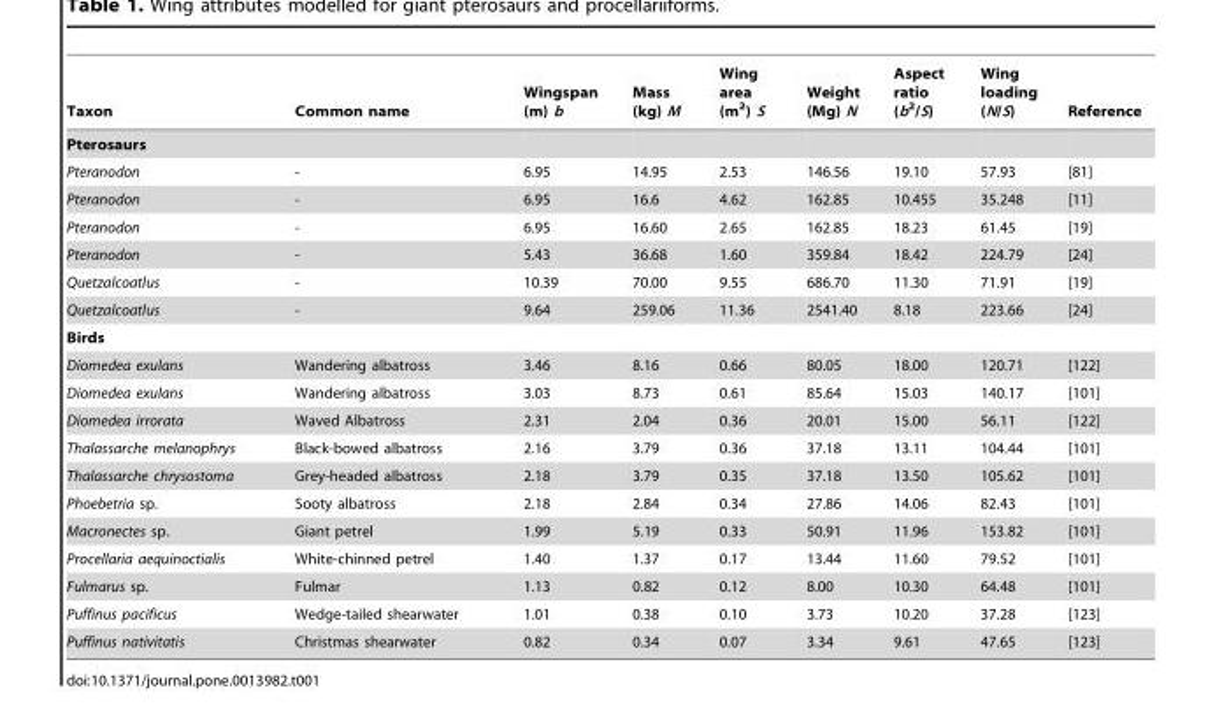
<table><thead><tr><td>Taxon</td><td>Common name</td><td>Wingspan (m) b</td><td>Mass (kg) M</td><td>Wing area (m<sup>2</sup>) S</td><td>Weight (Mg) N</td><td>Aspect ratio (b<sup>2</sup>/S)</td><td>Wing loading (N/S)</td><td>Reference</td></tr></thead><tbody><tr><td colspan="9">Pterosaurs</td></tr><tr><td>Pteranodon</td><td>-</td><td>6.95</td><td>14.95</td><td>2.53</td><td>146.56</td><td>19.10</td><td>57.93</td><td>[81]</td></tr><tr><td>Pteranodon</td><td>-</td><td>6.95</td><td>16.6</td><td>4.62</td><td>162.85</td><td>10.455</td><td>35.248</td><td>[11]</td></tr><tr><td>Pteranodon</td><td>-</td><td>6.95</td><td>16.60</td><td>2.65</td><td>162.85</td><td>18.23</td><td>61.45</td><td>[19]</td></tr><tr><td>Pteranodon</td><td>-</td><td>5.43</td><td>36.68</td><td>1.60</td><td>359.84</td><td>18.42</td><td>224.79</td><td>[24]</td></tr><tr><td>Quetzalcoatlus</td><td>-</td><td>10.39</td><td>70.00</td><td>9.55</td><td>686.70</td><td>11.30</td><td>71.91</td><td>[19]</td></tr><tr><td>Quetzalcoatlus</td><td>-</td><td>9.64</td><td>259.06</td><td>11.36</td><td>2541.40</td><td>8.18</td><td>223.66</td><td>[24]</td></tr><tr><td colspan="9">Birds</td></tr><tr><td>Diomedea exulans</td><td>Wandering albatross</td><td>3.46</td><td>8.16</td><td>0.66</td><td>80.05</td><td>18.00</td><td>120.71</td><td>[122]</td></tr><tr><td>Diomedea exulans</td><td>Wandering albatross</td><td>3.03</td><td>8.73</td><td>0.61</td><td>85.64</td><td>15.03</td><td>140.17</td><td>[101]</td></tr><tr><td>Diomedea irrorata</td><td>Waved Albatross</td><td>2.31</td><td>2.04</td><td>0.36</td><td>20.01</td><td>15.00</td><td>56.11</td><td>[122]</td></tr><tr><td>Thalassarche melanophrys</td><td>Black-bowed albatross</td><td>2.16</td><td>3.79</td><td>0.36</td><td>37.18</td><td>13.11</td><td>104.44</td><td>[101]</td></tr><tr><td>Thalassarche chrysostoma</td><td>Grey-headed albatross</td><td>2.18</td><td>3.79</td><td>0.35</td><td>37.18</td><td>13.50</td><td>105.62</td><td>[101]</td></tr><tr><td>Phoebetria sp.</td><td>Sooty albatross</td><td>2.18</td><td>2.84</td><td>0.34</td><td>27.86</td><td>14.06</td><td>82.43</td><td>[101]</td></tr><tr><td>Macronectes sp.</td><td>Giant petrel</td><td>1.99</td><td>5.19</td><td>0.33</td><td>50.91</td><td>11.96</td><td>153.82</td><td>[101]</td></tr><tr><td>Procellaria aequinoctialis</td><td>White-chinned petrel</td><td>1.40</td><td>1.37</td><td>0.17</td><td>13.44</td><td>11.60</td><td>79.52</td><td>[101]</td></tr><tr><td>Fulmarus sp.</td><td>Fulmar</td><td>1.13</td><td>0.82</td><td>0.12</td><td>8.00</td><td>10.30</td><td>64.48</td><td>[101]</td></tr><tr><td>Puffinus pacificus</td><td>Wedge-tailed shearwater</td><td>1.01</td><td>0.38</td><td>0.10</td><td>3.73</td><td>10.20</td><td>37.28</td><td>[123]</td></tr><tr><td>Puffinus nativitatis</td><td>Christmas shearwater</td><td>0.82</td><td>0.34</td><td>0.07</td><td>3.34</td><td>9.61</td><td>47.65</td><td>[123]</td></tr></tbody></table>